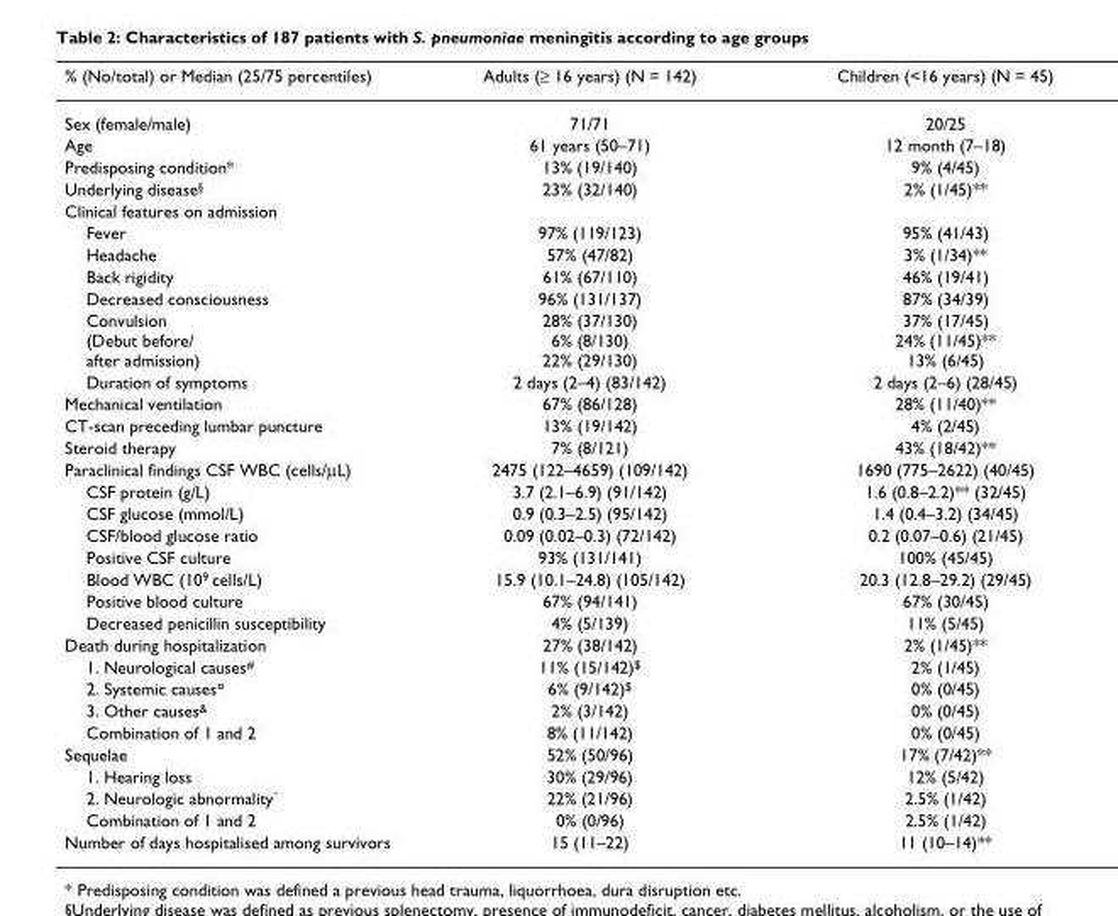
<table><thead><tr><td>% (No/total) or Median (25/75 percentiles)</td><td>Adults (≥ 16 years) (N = 142)</td><td>Children (&lt;16 years) (N = 45)</td></tr></thead><tbody><tr><td>Sex (female/male)</td><td>71/71</td><td>20/25</td></tr><tr><td>Age</td><td>61 years (50–71)</td><td>12 month (7–18)</td></tr><tr><td>Predisposing condition*</td><td>13% (19/140)</td><td>9% (4/45)</td></tr><tr><td>Underlying disease<sup>§</sup></td><td>23% (32/140)</td><td>2% (1/45)**</td></tr><tr><td colspan="3">Clinical features on admission</td></tr><tr><td>Fever</td><td>97% (119/123)</td><td>95% (41/43)</td></tr><tr><td>Headache</td><td>57% (47/82)</td><td>3% (1/34)**</td></tr><tr><td>Back rigidity</td><td>61% (67/110)</td><td>46% (19/41)</td></tr><tr><td>Decreased consciousness</td><td>96% (131/137)</td><td>87% (34/39)</td></tr><tr><td>Convulsion (Debut before/ after admission)</td><td>28% (37/130) 6% (8/130) 22% (29/130)</td><td>37% (17/45) 24% (11/45)** 13% (6/45)</td></tr><tr><td>Duration of symptoms</td><td>2 days (2–4) (83/142)</td><td>2 days (2–6) (28/45)</td></tr><tr><td>Mechanical ventilation</td><td>67% (86/128)</td><td>28% (11/40)**</td></tr><tr><td>CT-scan preceding lumbar puncture</td><td>13% (19/142)</td><td>4% (2/45)</td></tr><tr><td>Steroid therapy</td><td>7% (8/121)</td><td>43% (18/42)**</td></tr><tr><td>Paraclinical findings CSF WBC (cells/µL)</td><td>2475 (122–4659) (109/142)</td><td>1690 (775–2622) (40/45)</td></tr><tr><td>CSF protein (g/L)</td><td>3.7 (2.1–6.9) (91/142)</td><td>1.6 (0.8–2.2)** (32/45)</td></tr><tr><td>CSF glucose (mmol/L)</td><td>0.9 (0.3–2.5) (95/142)</td><td>1.4 (0.4–3.2) (34/45)</td></tr><tr><td>CSF/blood glucose ratio</td><td>0.09 (0.02–0.3) (72/142)</td><td>0.2 (0.07–0.6) (21/45)</td></tr><tr><td>Positive CSF culture</td><td>93% (131/141)</td><td>100% (45/45)</td></tr><tr><td>Blood WBC (10<sup>9</sup> cells/L)</td><td>15.9 (10.1–24.8) (105/142)</td><td>20.3 (12.8–29.2) (29/45)</td></tr><tr><td>Positive blood culture</td><td>67% (94/141)</td><td>67% (30/45)</td></tr><tr><td>Decreased penicillin susceptibility</td><td>4% (5/139)</td><td>11% (5/45)</td></tr><tr><td>Death during hospitalization</td><td>27% (38/142)</td><td>2% (1/45)**</td></tr><tr><td>1. Neurological causes<sup>#</sup></td><td>11% (15/142)<sup>$</sup></td><td>2% (1/45)</td></tr><tr><td>2. Systemic causes<sup>¤</sup></td><td>6% (9/142)<sup>$</sup></td><td>0% (0/45)</td></tr><tr><td>3. Other causes<sup>&amp;</sup></td><td>2% (3/142)</td><td>0% (0/45)</td></tr><tr><td>Combination of 1 and 2</td><td>8% (11/142)</td><td>0% (0/45)</td></tr><tr><td>Sequelae</td><td>52% (50/96)</td><td>17% (7/42)**</td></tr><tr><td>1. Hearing loss</td><td>30% (29/96)</td><td>12% (5/42)</td></tr><tr><td>2. Neurologic abnormality<sup>ˆ</sup></td><td>22% (21/96)</td><td>2.5% (1/42)</td></tr><tr><td>Combination of 1 and 2</td><td>0% (0/96)</td><td>2.5% (1/42)</td></tr><tr><td>Number of days hospitalised among survivors</td><td>15 (11–22)</td><td>11 (10–14)**</td></tr></tbody></table>